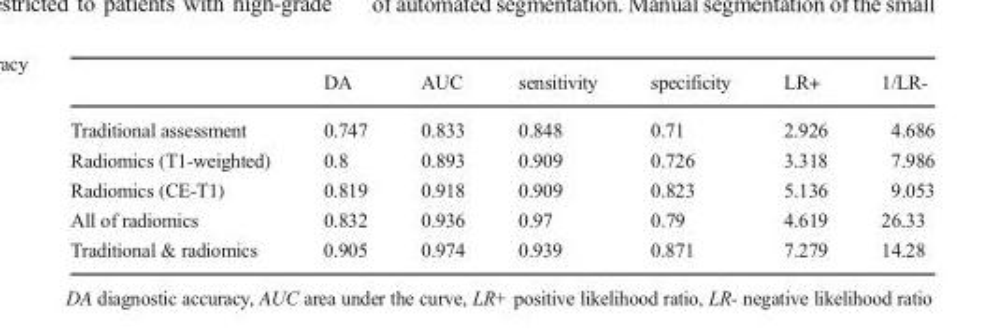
<table><thead><tr><td></td><td>DA</td><td>AUC</td><td>sensitivity</td><td>specificity</td><td>LR+</td><td>1/LR-</td></tr></thead><tbody><tr><td>Traditional assessment</td><td>0.747</td><td>0.833</td><td>0.848</td><td>0.71</td><td>2.926</td><td>4.686</td></tr><tr><td>Radiomics (T1-weighted)</td><td>0.8</td><td>0.893</td><td>0.909</td><td>0.726</td><td>3.318</td><td>7.986</td></tr><tr><td>Radiomics (CE-T1)</td><td>0.819</td><td>0.918</td><td>0.909</td><td>0.823</td><td>5.136</td><td>9.053</td></tr><tr><td>All of radiomics</td><td>0.832</td><td>0.936</td><td>0.97</td><td>0.79</td><td>4.619</td><td>26.33</td></tr><tr><td>Traditional &amp; radiomics</td><td>0.905</td><td>0.974</td><td>0.939</td><td>0.871</td><td>7.279</td><td>14.28</td></tr></tbody></table>